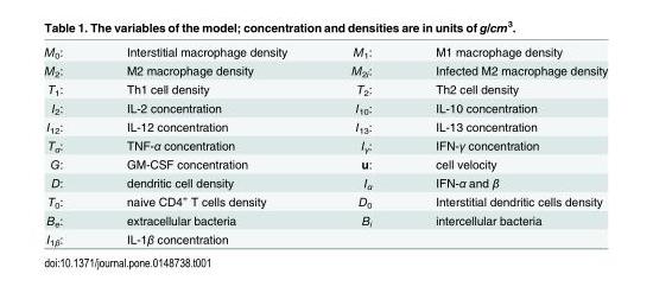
<table><tbody><tr><td>M<sub>0</sub>:</td><td>Interstitial macrophage density</td><td>M<sub>1</sub>:</td><td>M1 macrophage density</td></tr><tr><td>M<sub>2</sub>:</td><td>M2 macrophage density</td><td>M<sub>2i</sub>:</td><td>Infected M2 macrophage density</td></tr><tr><td>T<sub>1</sub>:</td><td>Th1 cell density</td><td>T<sub>2</sub>:</td><td>Th2 cell density</td></tr><tr><td>I<sub>2</sub>:</td><td>IL-2 concentration</td><td>I<sub>10</sub>:</td><td>IL-10 concentration</td></tr><tr><td>I<sub>12</sub>:</td><td>IL-12 concentration</td><td>I<sub>13</sub>:</td><td>IL-13 concentration</td></tr><tr><td>T<sub>α</sub>:</td><td>TNF-α concentration</td><td>I<sub>γ</sub>:</td><td>IFN-γ concentration</td></tr><tr><td>G:</td><td>GM-CSF concentration</td><td>u:</td><td>cell velocity</td></tr><tr><td>D:</td><td>dendritic cell density</td><td>I<sub>α</sub></td><td>IFN-α and β</td></tr><tr><td>T<sub>0</sub>:</td><td>naive CD4<sup>+</sup> T cells density</td><td>D<sub>0</sub></td><td>Interstitial dendritic cells density</td></tr><tr><td>B<sub>e</sub>:</td><td>extracellular bacteria</td><td>B<sub>i</sub></td><td>intercellular bacteria</td></tr><tr><td>I<sub>1β</sub>:</td><td>IL-1β concentration</td><td></td><td></td></tr></tbody></table>